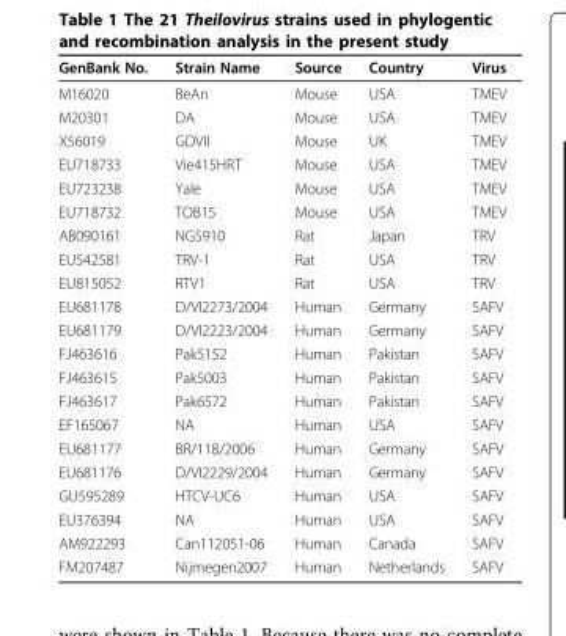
<table><thead><tr><td>GenBank No.</td><td>Strain Name</td><td>Source</td><td>Country</td><td>Virus</td></tr></thead><tbody><tr><td>M16020</td><td>BeAn</td><td>Mouse</td><td>USA</td><td>TMEV</td></tr><tr><td>M20301</td><td>DA</td><td>Mouse</td><td>USA</td><td>TMEV</td></tr><tr><td>X56019</td><td>GDVII</td><td>Mouse</td><td>UK</td><td>TMEV</td></tr><tr><td>EU718733</td><td>Vie415HRT</td><td>Mouse</td><td>USA</td><td>TMEV</td></tr><tr><td>EU723238</td><td>Yale</td><td>Mouse</td><td>USA</td><td>TMEV</td></tr><tr><td>EU718732</td><td>TOB15</td><td>Mouse</td><td>USA</td><td>TMEV</td></tr><tr><td>AB090161</td><td>NGS910</td><td>Rat</td><td>Japan</td><td>TRV</td></tr><tr><td>EU542581</td><td>TRV-1</td><td>Rat</td><td>USA</td><td>TRV</td></tr><tr><td>EU815052</td><td>RTV1</td><td>Rat</td><td>USA</td><td>TRV</td></tr><tr><td>EU681178</td><td>D/VI2273/2004</td><td>Human</td><td>Germany</td><td>SAFV</td></tr><tr><td>EU681179</td><td>D/VI2223/2004</td><td>Human</td><td>Germany</td><td>SAFV</td></tr><tr><td>FJ463616</td><td>Pak5152</td><td>Human</td><td>Pakistan</td><td>SAFV</td></tr><tr><td>FJ463615</td><td>Pak5003</td><td>Human</td><td>Pakistan</td><td>SAFV</td></tr><tr><td>FJ463617</td><td>Pak6572</td><td>Human</td><td>Pakistan</td><td>SAFV</td></tr><tr><td>EF165067</td><td>NA</td><td>Human</td><td>USA</td><td>SAFV</td></tr><tr><td>EU681177</td><td>BR/118/2006</td><td>Human</td><td>Germany</td><td>SAFV</td></tr><tr><td>EU681176</td><td>D/VI2229/2004</td><td>Human</td><td>Germany</td><td>SAFV</td></tr><tr><td>GU595289</td><td>HTCV-UC6</td><td>Human</td><td>USA</td><td>SAFV</td></tr><tr><td>EU376394</td><td>NA</td><td>Human</td><td>USA</td><td>SAFV</td></tr><tr><td>AM922293</td><td>Can112051-06</td><td>Human</td><td>Canada</td><td>SAFV</td></tr><tr><td>FM207487</td><td>Nijmegen2007</td><td>Human</td><td>Netherlands</td><td>SAFV</td></tr></tbody></table>